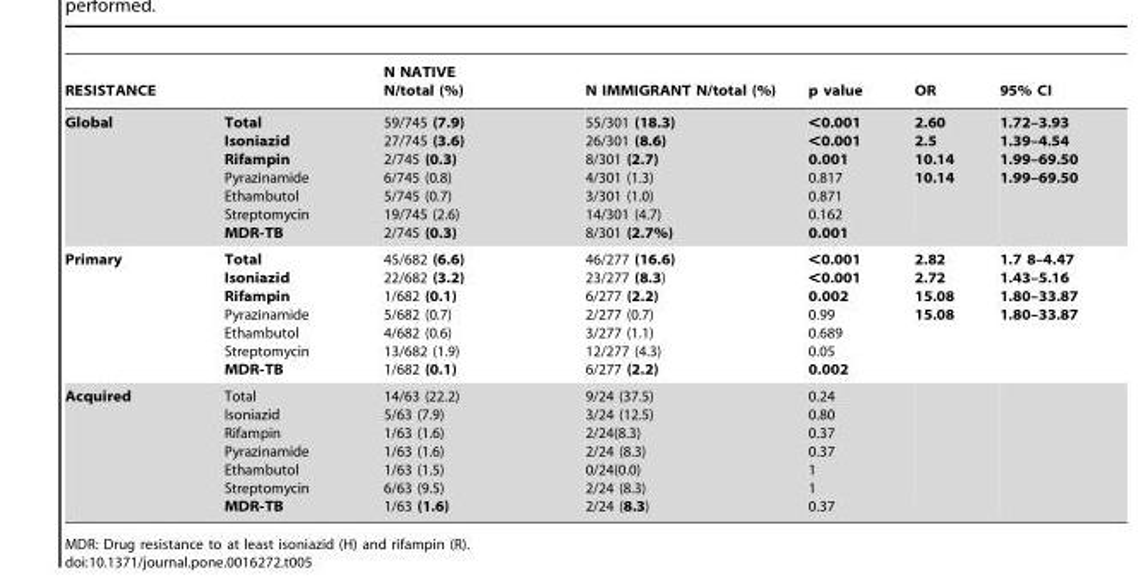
<table><thead><tr><td>RESISTANCE</td><td></td><td>N NATIVE N/total (%)</td><td>N IMMIGRANT N/total (%)</td><td>p value</td><td>OR</td><td>95% CI</td></tr></thead><tbody><tr><td>Global</td><td>Total Isoniazid Rifampin Pyrazinamide Ethambutol Streptomycin MDR-TB</td><td>59/745 (7.9) 27/745 (3.6) 2/745 (0.3) 6/745 (0.8) 5/745 (0.7) 19/745 (2.6) 2/745 (0.3)</td><td>55/301 (18.3) 26/301 (8.6) 8/301 (2.7) 4/301 (1.3) 3/301 (1.0) 14/301 (4.7) 8/301 (2.7%)</td><td>&lt;0.001 &lt;0.001 0.001 0.817 0.871 0.162 0.001</td><td>2.60 2.5 10.14 10.14</td><td>1.72–3.93 1.39–4.54 1.99–69.50 1.99–69.50</td></tr><tr><td>Primary</td><td>Total Isoniazid Rifampin Pyrazinamide Ethambutol Streptomycin MDR-TB</td><td>45/682 (6.6) 22/682 (3.2) 1/682 (0.1) 5/682 (0.7) 4/682 (0.6) 13/682 (1.9) 1/682 (0.1)</td><td>46/277 (16.6) 23/277 (8.3) 6/277 (2.2) 2/277 (0.7) 3/277 (1.1) 12/277 (4.3) 6/277 (2.2)</td><td>&lt;0.001 &lt;0.001 0.002 0.99 0.689 0.05 0.002</td><td>2.82 2.72 15.08 15.08</td><td>1.7 8–4.47 1.43–5.16 1.80–33.87 1.80–33.87</td></tr><tr><td>Acquired</td><td>Total Isoniazid Rifampin Pyrazinamide Ethambutol Streptomycin MDR-TB</td><td>14/63 (22.2) 5/63 (7.9) 1/63 (1.6) 1/63 (1.6) 1/63 (1.5) 6/63 (9.5) 1/63 (1.6)</td><td>9/24 (37.5) 3/24 (12.5) 2/24(8.3) 2/24 (8.3) 0/24(0.0) 2/24 (8.3) 2/24 (8.3)</td><td>0.24 0.80 0.37 0.37 1 1 0.37</td><td></td><td></td></tr></tbody></table>